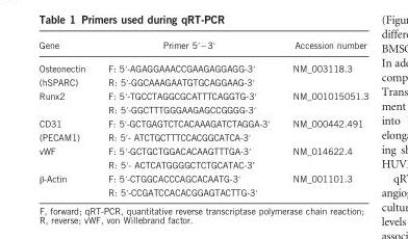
<table><thead><tr><td>Gene</td><td>Primer 5′ – 3′</td><td>Accession number</td></tr></thead><tbody><tr><td>Osteonectin (hSPARC)</td><td>F: 5′-AGAGGAAACCGAAGAGGAGG-3′ R: 5′-GGCAAAGAATGTGCAGGAAG-3′</td><td>NM_003118.3</td></tr><tr><td>Runx2</td><td>F: 5′-TGCCTAGGCGCATTTCAGGTG-3′ R: 5′-GGCTTTGGGAAGAGCCGGGG-3′</td><td>NM_001015051.3</td></tr><tr><td>CD31 (PECAM1)</td><td>F: 5′-GCTGAGTCTCACAAAGATCTAGGA-3′ R: 5′- ATCTGCTTTCCACGGCATCA-3′</td><td>NM_000442.491</td></tr><tr><td>vWF</td><td>F: 5′-GCTGCTGGACACAAGTTTGA-3′ R: 5′- ACTCATGGGGCTCTGCATAC-3’</td><td>NM_014622.4</td></tr><tr><td>β-Actin</td><td>F: 5′-CTGGCACCCAGCACAATG-3′ R: 5′-CCGATCCACACGGAGTACTTG-3′</td><td>NM_001101.3</td></tr></tbody></table>